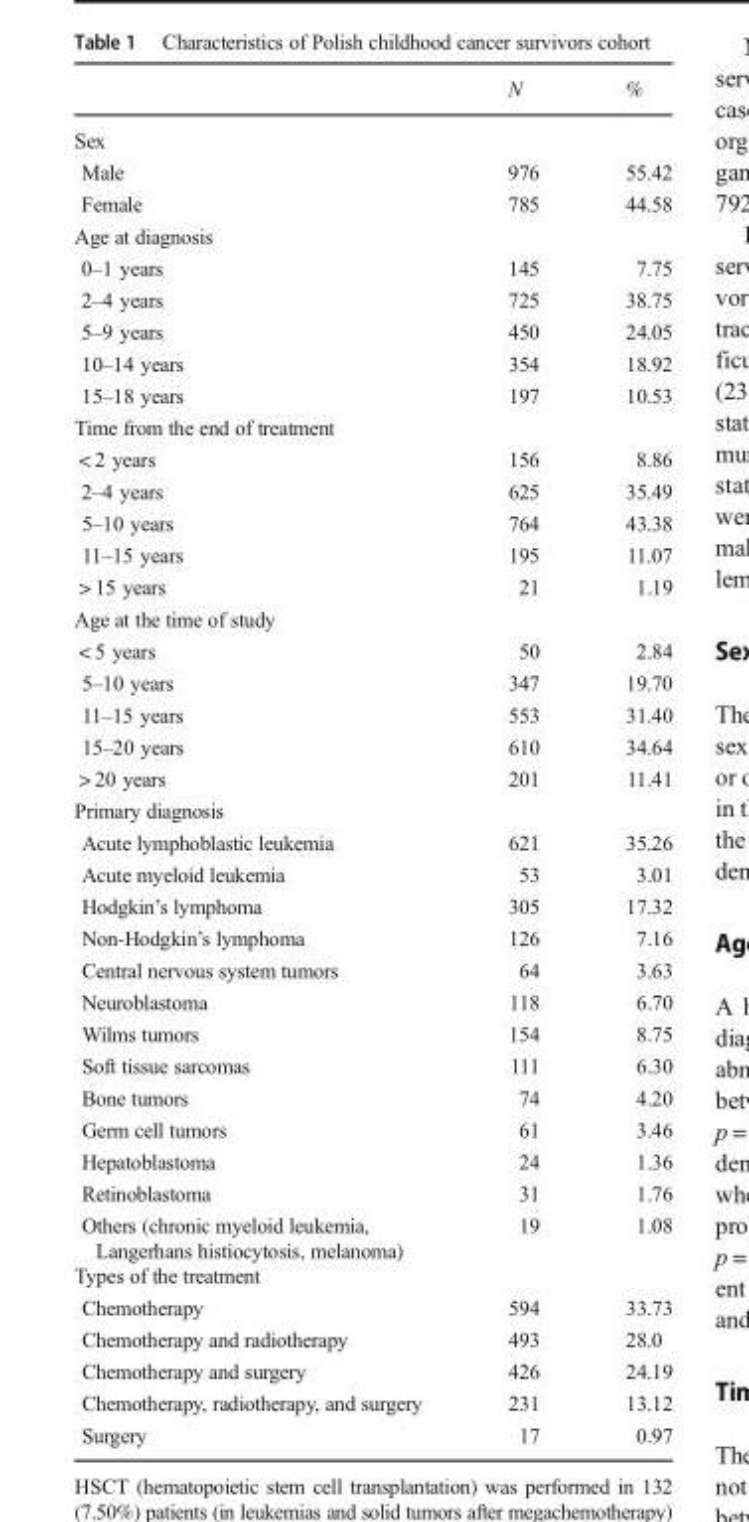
<table><thead><tr><td></td><td>N</td><td>%</td></tr></thead><tbody><tr><td colspan="3">Sex</td></tr><tr><td>Male</td><td>976</td><td>55.42</td></tr><tr><td>Female</td><td>785</td><td>44.58</td></tr><tr><td colspan="3">Age at diagnosis</td></tr><tr><td>0–1 years</td><td>145</td><td>7.75</td></tr><tr><td>2–4 years</td><td>725</td><td>38.75</td></tr><tr><td>5–9 years</td><td>450</td><td>24.05</td></tr><tr><td>10–14 years</td><td>354</td><td>18.92</td></tr><tr><td>15–18 years</td><td>197</td><td>10.53</td></tr><tr><td colspan="3">Time from the end of treatment</td></tr><tr><td>&lt; 2 years</td><td>156</td><td>8.86</td></tr><tr><td>2–4 years</td><td>625</td><td>35.49</td></tr><tr><td>5–10 years</td><td>764</td><td>43.38</td></tr><tr><td>11–15 years</td><td>195</td><td>11.07</td></tr><tr><td>&gt; 15 years</td><td>21</td><td>1.19</td></tr><tr><td colspan="3">Age at the time of study</td></tr><tr><td>&lt; 5 years</td><td>50</td><td>2.84</td></tr><tr><td>5–10 years</td><td>347</td><td>19.70</td></tr><tr><td>11–15 years</td><td>553</td><td>31.40</td></tr><tr><td>15–20 years</td><td>610</td><td>34.64</td></tr><tr><td>&gt; 20 years</td><td>201</td><td>11.41</td></tr><tr><td colspan="3">Primary diagnosis</td></tr><tr><td>Acute lymphoblastic leukemia</td><td>621</td><td>35.26</td></tr><tr><td>Acute myeloid leukemia</td><td>53</td><td>3.01</td></tr><tr><td>Hodgkin’s lymphoma</td><td>305</td><td>17.32</td></tr><tr><td>Non-Hodgkin’s lymphoma</td><td>126</td><td>7.16</td></tr><tr><td>Central nervous system tumors</td><td>64</td><td>3.63</td></tr><tr><td>Neuroblastoma</td><td>118</td><td>6.70</td></tr><tr><td>Wilms tumors</td><td>154</td><td>8.75</td></tr><tr><td>Soft tissue sarcomas</td><td>111</td><td>6.30</td></tr><tr><td>Bone tumors</td><td>74</td><td>4.20</td></tr><tr><td>Germ cell tumors</td><td>61</td><td>3.46</td></tr><tr><td>Hepatoblastoma</td><td>24</td><td>1.36</td></tr><tr><td>Retinoblastoma</td><td>31</td><td>1.76</td></tr><tr><td>Others (chronic myeloid leukemia, Langerhans histiocytosis, melanoma)</td><td>19</td><td>1.08</td></tr><tr><td colspan="3">Types of the treatment</td></tr><tr><td>Chemotherapy</td><td>594</td><td>33.73</td></tr><tr><td>Chemotherapy and radiotherapy</td><td>493</td><td>28.0</td></tr><tr><td>Chemotherapy and surgery</td><td>426</td><td>24.19</td></tr><tr><td>Chemotherapy, radiotherapy, and surgery</td><td>231</td><td>13.12</td></tr><tr><td>Surgery</td><td>17</td><td>0.97</td></tr></tbody></table>